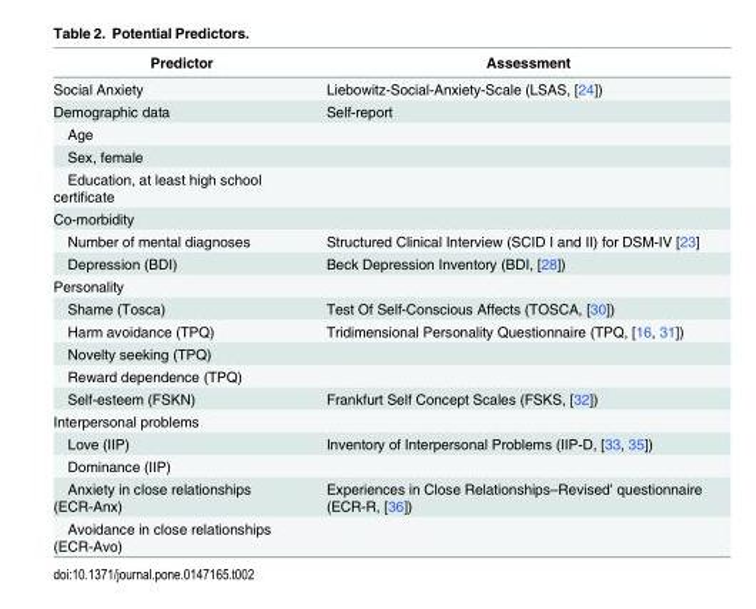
<table><thead><tr><td>Predictor</td><td>Assessment</td></tr></thead><tbody><tr><td>Social Anxiety</td><td>Liebowitz-Social-Anxiety-Scale (LSAS, [24])</td></tr><tr><td>Demographic data</td><td>Self-report</td></tr><tr><td colspan="2">Age</td></tr><tr><td colspan="2">Sex, female</td></tr><tr><td colspan="2">Education, at least high school certificate</td></tr><tr><td colspan="2">Co-morbidity</td></tr><tr><td>Number of mental diagnoses</td><td>Structured Clinical Interview (SCID I and II) for DSM-IV [23]</td></tr><tr><td>Depression (BDI)</td><td>Beck Depression Inventory (BDI, [28])</td></tr><tr><td colspan="2">Personality</td></tr><tr><td>Shame (Tosca)</td><td>Test Of Self-Conscious Affects (TOSCA, [30])</td></tr><tr><td>Harm avoidance (TPQ)</td><td>Tridimensional Personality Questionnaire (TPQ, [16, 31])</td></tr><tr><td colspan="2">Novelty seeking (TPQ)</td></tr><tr><td colspan="2">Reward dependence (TPQ)</td></tr><tr><td>Self-esteem (FSKN)</td><td>Frankfurt Self Concept Scales (FSKS, [32])</td></tr><tr><td colspan="2">Interpersonal problems</td></tr><tr><td>Love (IIP)</td><td>Inventory of Interpersonal Problems (IIP-D, [33, 35])</td></tr><tr><td colspan="2">Dominance (IIP)</td></tr><tr><td>Anxiety in close relationships (ECR-Anx)</td><td>Experiences in Close Relationships–Revised’ questionnaire (ECR-R, [36])</td></tr><tr><td>Avoidance in close relationships (ECR-Avo)</td><td></td></tr></tbody></table>